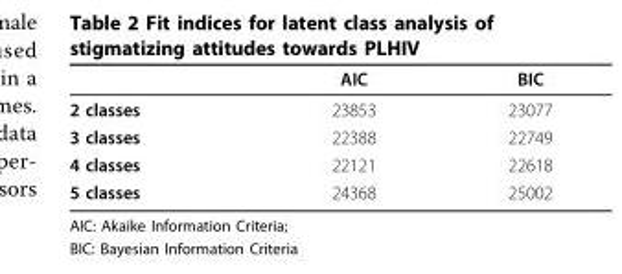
<table><thead><tr><td></td><td>AIC</td><td>BIC</td></tr></thead><tbody><tr><td>2 classes</td><td>23853</td><td>23077</td></tr><tr><td>3 classes</td><td>22388</td><td>22749</td></tr><tr><td>4 classes</td><td>22121</td><td>22618</td></tr><tr><td>5 classes</td><td>24368</td><td>25002</td></tr></tbody></table>